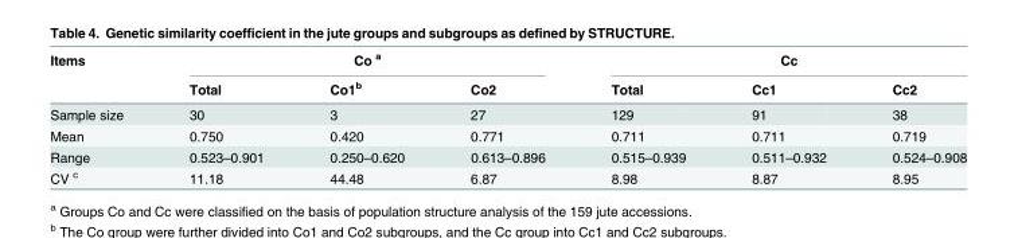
<table><thead><tr><td rowspan="2">Items</td><td colspan="3">Co <sup>a</sup></td><td colspan="3">Cc</td></tr><tr><td>Total</td><td>Co1<sup>b</sup></td><td>Co2</td><td>Total</td><td>Cc1</td><td>Cc2</td></tr></thead><tbody><tr><td>Sample size</td><td>30</td><td>3</td><td>27</td><td>129</td><td>91</td><td>38</td></tr><tr><td>Mean</td><td>0.750</td><td>0.420</td><td>0.771</td><td>0.711</td><td>0.711</td><td>0.719</td></tr><tr><td>Range</td><td>0.523–0.901</td><td>0.250–0.620</td><td>0.613–0.896</td><td>0.515–0.939</td><td>0.511–0.932</td><td>0.524–0.908</td></tr><tr><td>CV <sup>c</sup></td><td>11.18</td><td>44.48</td><td>6.87</td><td>8.98</td><td>8.87</td><td>8.95</td></tr></tbody></table>